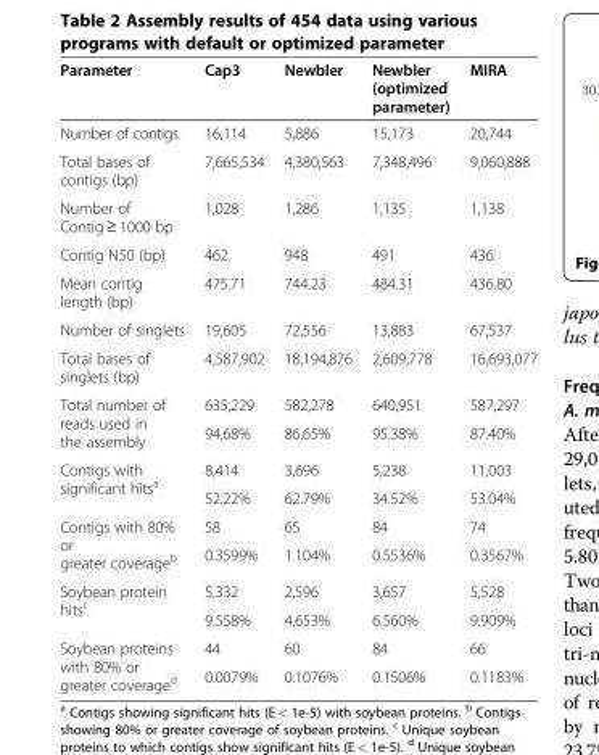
<table><thead><tr><td>Parameter</td><td>Cap3</td><td>Newbler</td><td>Newbler (optimized parameter)</td><td>MIRA</td></tr></thead><tbody><tr><td>Number of contigs</td><td>16,114</td><td>5,886</td><td>15,173</td><td>20,744</td></tr><tr><td>Total bases of contigs (bp)</td><td>7,665,534</td><td>4,380,563</td><td>7,348,496</td><td>9,060,888</td></tr><tr><td>Number of Contig ≥ 1000 bp</td><td>1,028</td><td>1,286</td><td>1,135</td><td>1,138</td></tr><tr><td>Contig N50 (bp)</td><td>462</td><td>948</td><td>491</td><td>436</td></tr><tr><td>Mean contig length (bp)</td><td>475.71</td><td>744.23</td><td>484.31</td><td>436.80</td></tr><tr><td>Number of singlets</td><td>19,605</td><td>72,556</td><td>13,883</td><td>67,537</td></tr><tr><td>Total bases of singlets (bp)</td><td>4,587,902</td><td>18,194,876</td><td>2,609,778</td><td>16,693,077</td></tr><tr><td rowspan="2">Total number of reads used in the assembly</td><td>635,229</td><td>582,278</td><td>640,951</td><td>587,297</td></tr><tr><td>94.68%</td><td>86.65%</td><td>95.38%</td><td>87.40%</td></tr><tr><td rowspan="2">Contigs with significant hits<sup>a</sup></td><td>8,414</td><td>3,696</td><td>5,238</td><td>11,003</td></tr><tr><td>52.22%</td><td>62.79%</td><td>34.52%</td><td>53.04%</td></tr><tr><td rowspan="2">Contigs with 80% or greater coverage<sup>b</sup></td><td>58</td><td>65</td><td>84</td><td>74</td></tr><tr><td>0.3599%</td><td>1.104%</td><td>0.5536%</td><td>0.3567%</td></tr><tr><td rowspan="2">Soybean protein hits<sup>c</sup></td><td>5,332</td><td>2,596</td><td>3,657</td><td>5,528</td></tr><tr><td>9.558%</td><td>4.653%</td><td>6.560%</td><td>9.909%</td></tr><tr><td rowspan="2">Soybean proteins with 80% or greater coverage<sup>d</sup></td><td>44</td><td>60</td><td>84</td><td>66</td></tr><tr><td>0.0079%</td><td>0.1076%</td><td>0.1506%</td><td>0.1183%</td></tr></tbody></table>